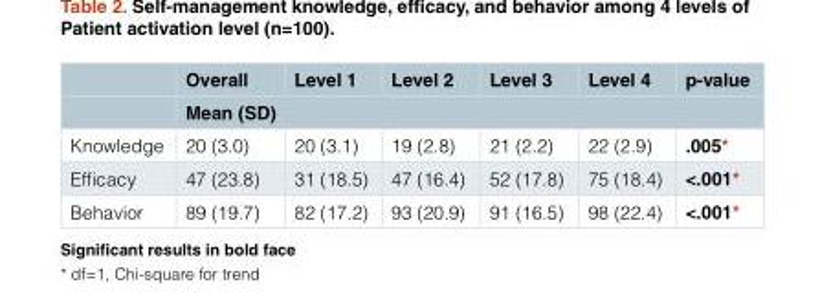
<table><thead><tr><td rowspan="2"></td><td>Overall</td><td>Level 1</td><td>Level 2</td><td>Level 3</td><td>Level 4</td><td>p-value</td></tr><tr><td colspan="6">Mean (SD)</td></tr></thead><tbody><tr><td>Knowledge</td><td>20 (3.0)</td><td>20 (3.1)</td><td>19 (2.8)</td><td>21 (2.2)</td><td>22 (2.9)</td><td>.005*</td></tr><tr><td>Efficacy</td><td>47 (23.8)</td><td>31 (18.5)</td><td>47 (16.4)</td><td>52 (17.8)</td><td>75 (18.4)</td><td>&lt;.001*</td></tr><tr><td>Behavior</td><td>89 (19.7)</td><td>82 (17.2)</td><td>93 (20.9)</td><td>91 (16.5)</td><td>98 (22.4)</td><td>&lt;.001*</td></tr></tbody></table>